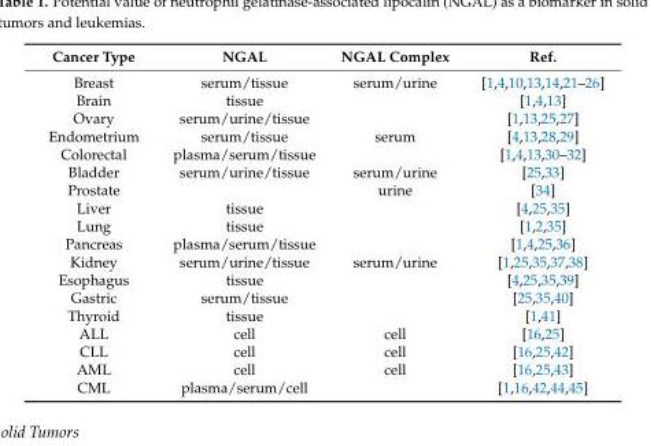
<table><thead><tr><td>Cancer Type</td><td>NGAL</td><td>NGAL Complex</td><td>Ref.</td></tr></thead><tbody><tr><td>Breast</td><td>serum/tissue</td><td>serum/urine</td><td>[1,4,10,13,14,21–26]</td></tr><tr><td>Brain</td><td>tissue</td><td></td><td>[1,4,13]</td></tr><tr><td>Ovary</td><td>serum/urine/tissue</td><td></td><td>[1,13,25,27]</td></tr><tr><td>Endometrium</td><td>serum/tissue</td><td>serum</td><td>[4,13,28,29]</td></tr><tr><td>Colorectal</td><td>plasma/serum/tissue</td><td></td><td>[1,4,13,30–32]</td></tr><tr><td>Bladder</td><td>serum/urine/tissue</td><td>serum/urine</td><td>[25,33]</td></tr><tr><td>Prostate</td><td></td><td>urine</td><td>[34]</td></tr><tr><td>Liver</td><td>tissue</td><td></td><td>[4,25,35]</td></tr><tr><td>Lung</td><td>tissue</td><td></td><td>[1,2,35]</td></tr><tr><td>Pancreas</td><td>plasma/serum/tissue</td><td></td><td>[1,4,25,36]</td></tr><tr><td>Kidney</td><td>serum/urine/tissue</td><td>serum/urine</td><td>[1,25,35,37,38]</td></tr><tr><td>Esophagus</td><td>tissue</td><td></td><td>[4,25,35,39]</td></tr><tr><td>Gastric</td><td>serum/tissue</td><td></td><td>[25,35,40]</td></tr><tr><td>Thyroid</td><td>tissue</td><td></td><td>[1,41]</td></tr><tr><td>ALL</td><td>cell</td><td>cell</td><td>[16,25]</td></tr><tr><td>CLL</td><td>cell</td><td>cell</td><td>[16,25,42]</td></tr><tr><td>AML</td><td>cell</td><td>cell</td><td>[16,25,43]</td></tr><tr><td>CML</td><td>plasma/serum/cell</td><td></td><td>[1,16,42,44,45]</td></tr></tbody></table>